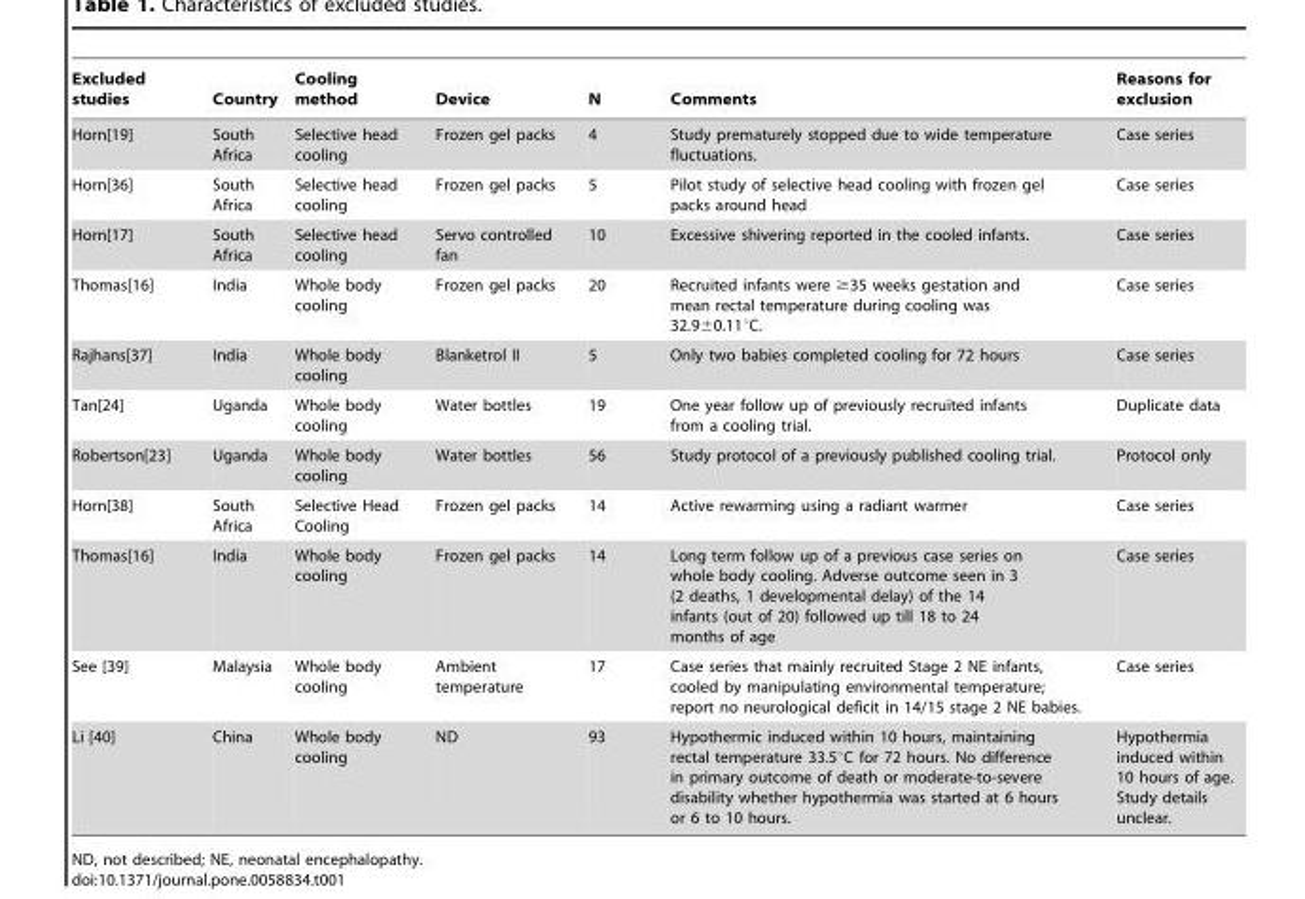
<table><thead><tr><td>Excluded studies</td><td>Country</td><td>Cooling method</td><td>Device</td><td>N</td><td>Comments</td><td>Reasons for exclusion</td></tr></thead><tbody><tr><td>Horn[19]</td><td>South Africa</td><td>Selective head cooling</td><td>Frozen gel packs</td><td>4</td><td>Study prematurely stopped due to wide temperature fluctuations.</td><td>Case series</td></tr><tr><td>Horn[36]</td><td>South Africa</td><td>Selective head cooling</td><td>Frozen gel packs</td><td>5</td><td>Pilot study of selective head cooling with frozen gel packs around head</td><td>Case series</td></tr><tr><td>Horn[17]</td><td>South Africa</td><td>Selective head cooling</td><td>Servo controlled fan</td><td>10</td><td>Excessive shivering reported in the cooled infants.</td><td>Case series</td></tr><tr><td>Thomas[16]</td><td>India</td><td>Whole body cooling</td><td>Frozen gel packs</td><td>20</td><td>Recruited infants were ≥35 weeks gestation and mean rectal temperature during cooling was 32.9±0.11°C.</td><td>Case series</td></tr><tr><td>Rajhans[37]</td><td>India</td><td>Whole body cooling</td><td>Blanketrol II</td><td>5</td><td>Only two babies completed cooling for 72 hours</td><td>Case series</td></tr><tr><td>Tan[24]</td><td>Uganda</td><td>Whole body cooling</td><td>Water bottles</td><td>19</td><td>One year follow up of previously recruited infants from a cooling trial.</td><td>Duplicate data</td></tr><tr><td>Robertson[23]</td><td>Uganda</td><td>Whole body cooling</td><td>Water bottles</td><td>56</td><td>Study protocol of a previously published cooling trial.</td><td>Protocol only</td></tr><tr><td>Horn[38]</td><td>South Africa</td><td>Selective Head Cooling</td><td>Frozen gel packs</td><td>14</td><td>Active rewarming using a radiant warmer</td><td>Case series</td></tr><tr><td>Thomas[16]</td><td>India</td><td>Whole body cooling</td><td>Frozen gel packs</td><td>14</td><td>Long term follow up of a previous case series on whole body cooling. Adverse outcome seen in 3 (2 deaths, 1 developmental delay) of the 14 infants (out of 20) followed up till 18 to 24 months of age</td><td>Case series</td></tr><tr><td>See [39]</td><td>Malaysia</td><td>Whole body cooling</td><td>Ambient temperature</td><td>17</td><td>Case series that mainly recruited Stage 2 NE infants, cooled by manipulating environmental temperature; report no neurological deficit in 14/15 stage 2 NE babies.</td><td>Case series</td></tr><tr><td>Li [40]</td><td>China</td><td>Whole body cooling</td><td>ND</td><td>93</td><td>Hypothermic induced within 10 hours, maintaining rectal temperature 33.5°C for 72 hours. No difference in primary outcome of death or moderate-to-severe disability whether hypothermia was started at 6 hours or 6 to 10 hours.</td><td>Hypothermia induced within 10 hours of age. Study details unclear.</td></tr></tbody></table>